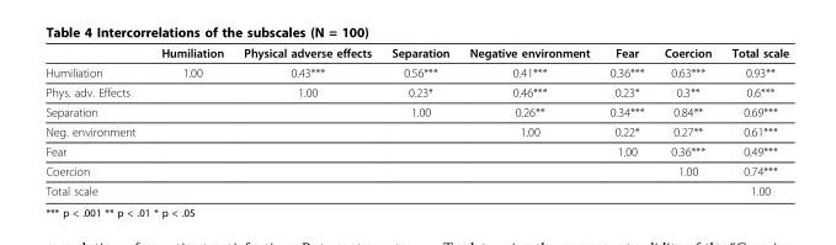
<table><thead><tr><td></td><td>Humiliation</td><td>Physical adverse effects</td><td>Separation</td><td>Negative environment</td><td>Fear</td><td>Coercion</td><td>Total scale</td></tr></thead><tbody><tr><td>Humiliation</td><td>1.00</td><td>0.43***</td><td>0.56***</td><td>0.41***</td><td>0.36***</td><td>0.63***</td><td>0.93**</td></tr><tr><td>Phys. adv. Effects</td><td></td><td>1.00</td><td>0.23*</td><td>0.46***</td><td>0.23*</td><td>0.3**</td><td>0.6***</td></tr><tr><td>Separation</td><td></td><td></td><td>1.00</td><td>0.26**</td><td>0.34***</td><td>0.84**</td><td>0.69***</td></tr><tr><td>Neg. environment</td><td></td><td></td><td></td><td>1.00</td><td>0.22*</td><td>0.27**</td><td>0.61***</td></tr><tr><td>Fear</td><td></td><td></td><td></td><td></td><td>1.00</td><td>0.36***</td><td>0.49***</td></tr><tr><td>Coercion</td><td></td><td></td><td></td><td></td><td></td><td>1.00</td><td>0.74***</td></tr><tr><td>Total scale</td><td></td><td></td><td></td><td></td><td></td><td></td><td>1.00</td></tr></tbody></table>